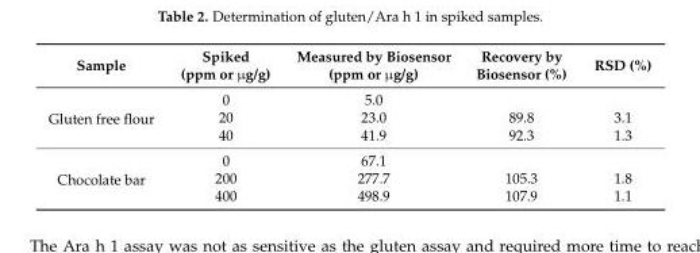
<table><thead><tr><td>Sample</td><td>Spiked (ppm or µg/g)</td><td>Measured by Biosensor (ppm or µg/g)</td><td>Recovery by Biosensor (%)</td><td>RSD (%)</td></tr></thead><tbody><tr><td rowspan="3">Gluten free flour</td><td>0</td><td>5.0</td><td></td><td></td></tr><tr><td>20</td><td>23.0</td><td>89.8</td><td>3.1</td></tr><tr><td>40</td><td>41.9</td><td>92.3</td><td>1.3</td></tr><tr><td rowspan="3">Chocolate bar</td><td>0</td><td>67.1</td><td></td><td></td></tr><tr><td>200</td><td>277.7</td><td>105.3</td><td>1.8</td></tr><tr><td>400</td><td>498.9</td><td>107.9</td><td>1.1</td></tr></tbody></table>